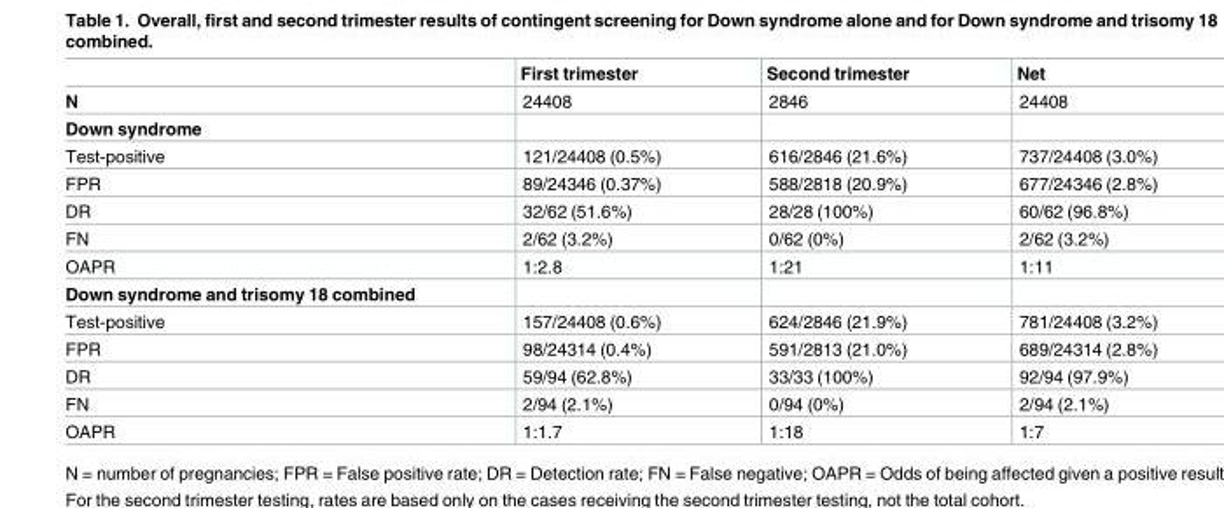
<table><thead><tr><td></td><td>First trimester</td><td>Second trimester</td><td>Net</td></tr></thead><tbody><tr><td>N</td><td>24408</td><td>2846</td><td>24408</td></tr><tr><td colspan="4">Down syndrome</td></tr><tr><td>Test-positive</td><td>121/24408 (0.5%)</td><td>616/2846 (21.6%)</td><td>737/24408 (3.0%)</td></tr><tr><td>FPR</td><td>89/24346 (0.37%)</td><td>588/2818 (20.9%)</td><td>677/24346 (2.8%)</td></tr><tr><td>DR</td><td>32/62 (51.6%)</td><td>28/28 (100%)</td><td>60/62 (96.8%)</td></tr><tr><td>FN</td><td>2/62 (3.2%)</td><td>0/62 (0%)</td><td>2/62 (3.2%)</td></tr><tr><td>OAPR</td><td>1:2.8</td><td>1:21</td><td>1:11</td></tr><tr><td colspan="4">Down syndrome and trisomy 18 combined</td></tr><tr><td>Test-positive</td><td>157/24408 (0.6%)</td><td>624/2846 (21.9%)</td><td>781/24408 (3.2%)</td></tr><tr><td>FPR</td><td>98/24314 (0.4%)</td><td>591/2813 (21.0%)</td><td>689/24314 (2.8%)</td></tr><tr><td>DR</td><td>59/94 (62.8%)</td><td>33/33 (100%)</td><td>92/94 (97.9%)</td></tr><tr><td>FN</td><td>2/94 (2.1%)</td><td>0/94 (0%)</td><td>2/94 (2.1%)</td></tr><tr><td>OAPR</td><td>1:1.7</td><td>1:18</td><td>1:7</td></tr></tbody></table>